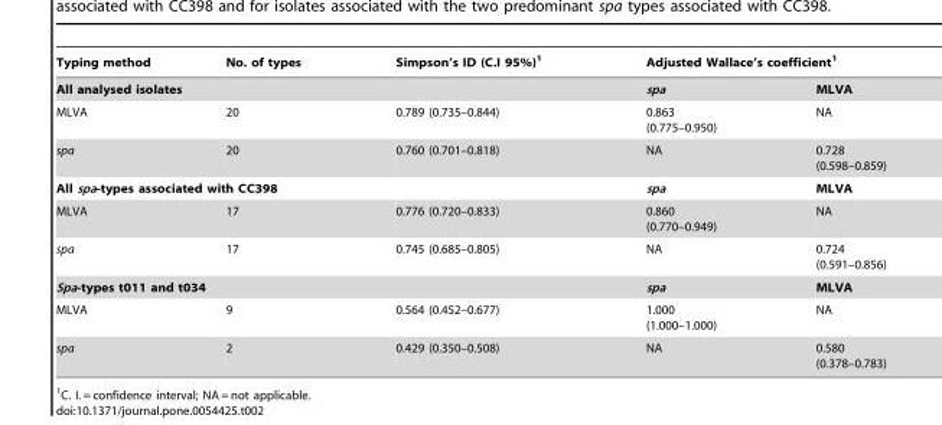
<table><thead><tr><td>Typing method</td><td>No. of types</td><td>Simpson’s ID (C.I 95%)<sup>1</sup></td><td colspan="2">Adjusted Wallace’s coefficient<sup>1</sup></td></tr><tr><td colspan="3">All analysed isolates</td><td>spa</td><td>MLVA</td></tr></thead><tbody><tr><td>MLVA</td><td>20</td><td>0.789 (0.735–0.844)</td><td>0.863 (0.775–0.950)</td><td>NA</td></tr><tr><td>spa</td><td>20</td><td>0.760 (0.701–0.818)</td><td>NA</td><td>0.728 (0.598–0.859)</td></tr><tr><td colspan="3">All spa-types associated with CC398</td><td>spa</td><td>MLVA</td></tr><tr><td>MLVA</td><td>17</td><td>0.776 (0.720–0.833)</td><td>0.860 (0.770–0.949)</td><td>NA</td></tr><tr><td>spa</td><td>17</td><td>0.745 (0.685–0.805)</td><td>NA</td><td>0.724 (0.591–0.856)</td></tr><tr><td colspan="3">Spa-types t011 and t034</td><td>spa</td><td>MLVA</td></tr><tr><td>MLVA</td><td>9</td><td>0.564 (0.452–0.677)</td><td>1.000 (1.000–1.000)</td><td>NA</td></tr><tr><td>spa</td><td>2</td><td>0.429 (0.350–0.508)</td><td>NA</td><td>0.580 (0.378–0.783)</td></tr></tbody></table>